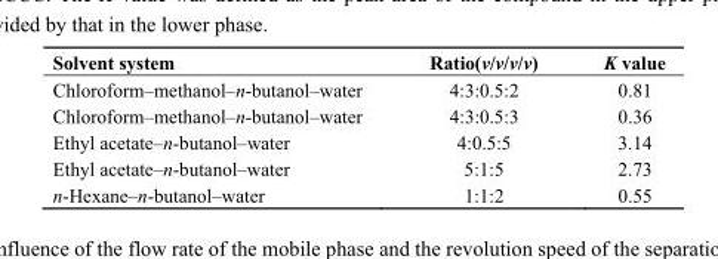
<table><thead><tr><td>Solvent system</td><td>Ratio(v/v/v/v)</td><td>K value</td></tr></thead><tbody><tr><td>Chloroform–methanol–n-butanol–water</td><td>4:3:0.5:2</td><td>0.81</td></tr><tr><td>Chloroform–methanol–n-butanol–water</td><td>4:3:0.5:3</td><td>0.36</td></tr><tr><td>Ethyl acetate–n-butanol–water</td><td>4:0.5:5</td><td>3.14</td></tr><tr><td>Ethyl acetate–n-butanol–water</td><td>5:1:5</td><td>2.73</td></tr><tr><td>n-Hexane–n-butanol–water</td><td>1:1:2</td><td>0.55</td></tr></tbody></table>